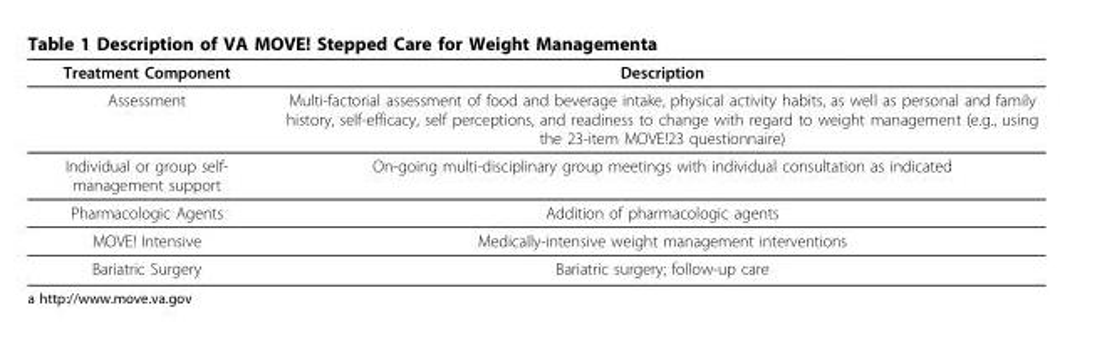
<table><thead><tr><td>Treatment Component</td><td>Description</td></tr></thead><tbody><tr><td>Assessment</td><td>Multi-factorial assessment of food and beverage intake, physical activity habits, as well as personal and family history, self-efficacy, self perceptions, and readiness to change with regard to weight management (e.g., using the 23-item MOVE!23 questionnaire)</td></tr><tr><td>Individual or group self- management support</td><td>On-going multi-disciplinary group meetings with individual consultation as indicated</td></tr><tr><td>Pharmacologic Agents</td><td>Addition of pharmacologic agents</td></tr><tr><td>MOVE! Intensive</td><td>Medically-intensive weight management interventions</td></tr><tr><td>Bariatric Surgery</td><td>Bariatric surgery; follow-up care</td></tr></tbody></table>